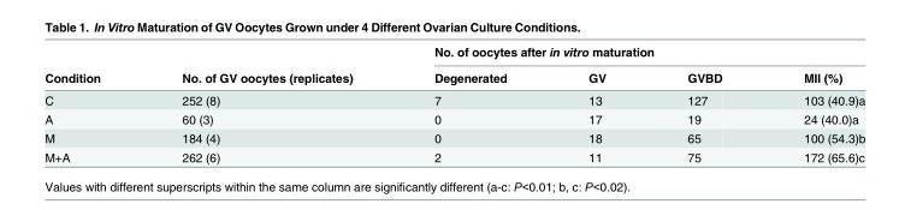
<table><thead><tr><td rowspan="2">Condition</td><td rowspan="2">No. of GV oocytes (replicates)</td><td colspan="4">No. of oocytes after in vitro maturation</td></tr><tr><td>Degenerated</td><td>GV</td><td>GVBD</td><td>MII (%)</td></tr></thead><tbody><tr><td>C</td><td>252 (8)</td><td>7</td><td>13</td><td>127</td><td>103 (40.9)a</td></tr><tr><td>A</td><td>60 (3)</td><td>0</td><td>17</td><td>19</td><td>24 (40.0)a</td></tr><tr><td>M</td><td>184 (4)</td><td>0</td><td>18</td><td>65</td><td>100 (54.3)b</td></tr><tr><td>M+A</td><td>262 (6)</td><td>2</td><td>11</td><td>75</td><td>172 (65.6)c</td></tr></tbody></table>